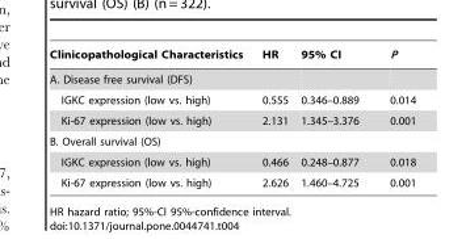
<table><thead><tr><td>Clinicopathological Characteristics</td><td>HR</td><td>95% CI</td><td>P</td></tr></thead><tbody><tr><td colspan="4">A. Disease free survival (DFS)</td></tr><tr><td>IGKC expression (low vs. high)</td><td>0.555</td><td>0.346–0.889</td><td>0.014</td></tr><tr><td>Ki-67 expression (low vs. high)</td><td>2.131</td><td>1.345–3.376</td><td>0.001</td></tr><tr><td colspan="4">B. Overall survival (OS)</td></tr><tr><td>IGKC expression (low vs. high)</td><td>0.466</td><td>0.248–0.877</td><td>0.018</td></tr><tr><td>Ki-67 expression (low vs. high)</td><td>2.626</td><td>1.460–4.725</td><td>0.001</td></tr></tbody></table>